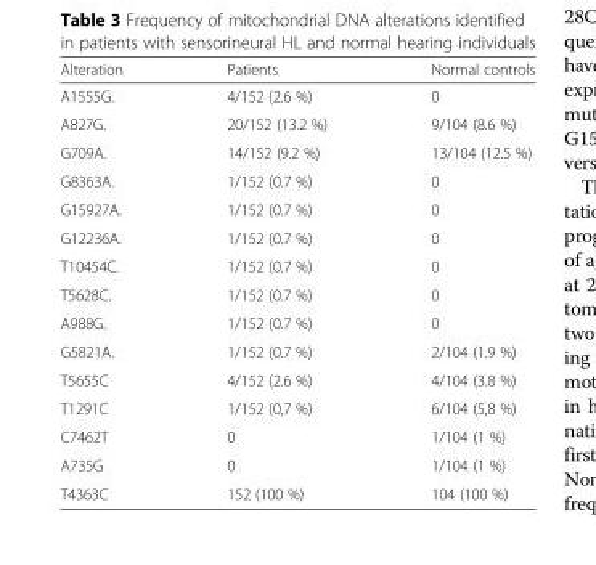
<table><thead><tr><td>Alteration</td><td>Patients</td><td>Normal controls</td></tr></thead><tbody><tr><td>A1555G.</td><td>4/152 (2.6 %)</td><td>0</td></tr><tr><td>A827G.</td><td>20/152 (13.2 %)</td><td>9/104 (8.6 %)</td></tr><tr><td>G709A.</td><td>14/152 (9.2 %)</td><td>13/104 (12.5 %)</td></tr><tr><td>G8363A.</td><td>1/152 (0.7 %)</td><td>0</td></tr><tr><td>G15927A.</td><td>1/152 (0.7 %)</td><td>0</td></tr><tr><td>G12236A.</td><td>1/152 (0.7 %)</td><td>0</td></tr><tr><td>T10454C.</td><td>1/152 (0.7 %)</td><td>0</td></tr><tr><td>T5628C.</td><td>1/152 (0.7 %)</td><td>0</td></tr><tr><td>A988G.</td><td>1/152 (0.7 %)</td><td>0</td></tr><tr><td>G5821A.</td><td>1/152 (0.7 %)</td><td>2/104 (1.9 %)</td></tr><tr><td>T5655C</td><td>4/152 (2.6 %)</td><td>4/104 (3.8 %)</td></tr><tr><td>T1291C</td><td>1/152 (0,7 %)</td><td>6/104 (5,8 %)</td></tr><tr><td>C7462T</td><td>0</td><td>1/104 (1 %)</td></tr><tr><td>A735G</td><td>0</td><td>1/104 (1 %)</td></tr><tr><td>T4363C</td><td>152 (100 %)</td><td>104 (100 %)</td></tr></tbody></table>